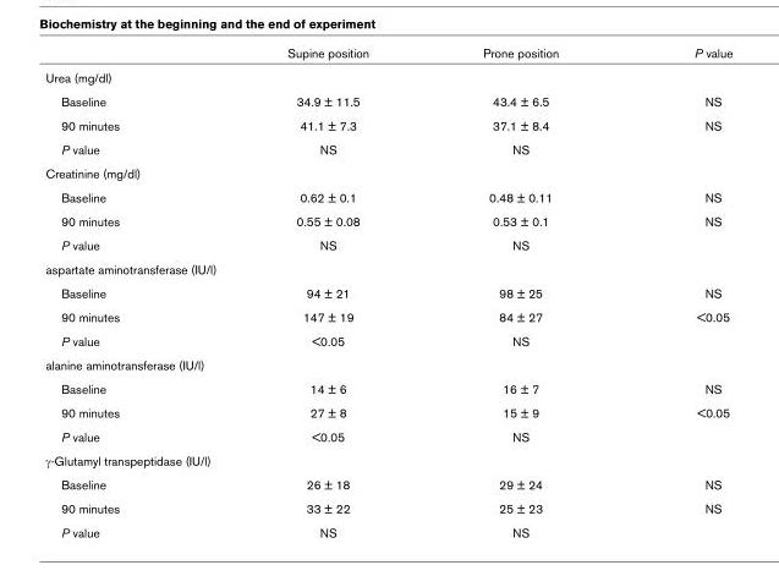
<table><thead><tr><td></td><td>Supine position</td><td>Prone position</td><td>P value</td></tr></thead><tbody><tr><td colspan="4">Urea (mg/dl)</td></tr><tr><td>Baseline</td><td>34.9 ± 11.5</td><td>43.4 ± 6.5</td><td>NS</td></tr><tr><td>90 minutes</td><td>41.1 ± 7.3</td><td>37.1 ± 8.4</td><td>NS</td></tr><tr><td>P value</td><td>NS</td><td>NS</td><td></td></tr><tr><td colspan="4">Creatinine (mg/dl)</td></tr><tr><td>Baseline</td><td>0.62 ± 0.1</td><td>0.48 ± 0.11</td><td>NS</td></tr><tr><td>90 minutes</td><td>0.55 ± 0.08</td><td>0.53 ± 0.1</td><td>NS</td></tr><tr><td>P value</td><td>NS</td><td>NS</td><td></td></tr><tr><td colspan="4">aspartate aminotransferase (IU/l)</td></tr><tr><td>Baseline</td><td>94 ± 21</td><td>98 ± 25</td><td>NS</td></tr><tr><td>90 minutes</td><td>147 ± 19</td><td>84 ± 27</td><td>&lt;0.05</td></tr><tr><td>P value</td><td>&lt;0.05</td><td>NS</td><td></td></tr><tr><td colspan="4">alanine aminotransferase (IU/l)</td></tr><tr><td>Baseline</td><td>14 ± 6</td><td>16 ± 7</td><td>NS</td></tr><tr><td>90 minutes</td><td>27 ± 8</td><td>15 ± 9</td><td>&lt;0.05</td></tr><tr><td>P value</td><td>&lt;0.05</td><td>NS</td><td></td></tr><tr><td colspan="4">γ-Glutamyl transpeptidase (IU/l)</td></tr><tr><td>Baseline</td><td>26 ± 18</td><td>29 ± 24</td><td>NS</td></tr><tr><td>90 minutes</td><td>33 ± 22</td><td>25 ± 23</td><td>NS</td></tr><tr><td>P value</td><td>NS</td><td>NS</td><td></td></tr></tbody></table>